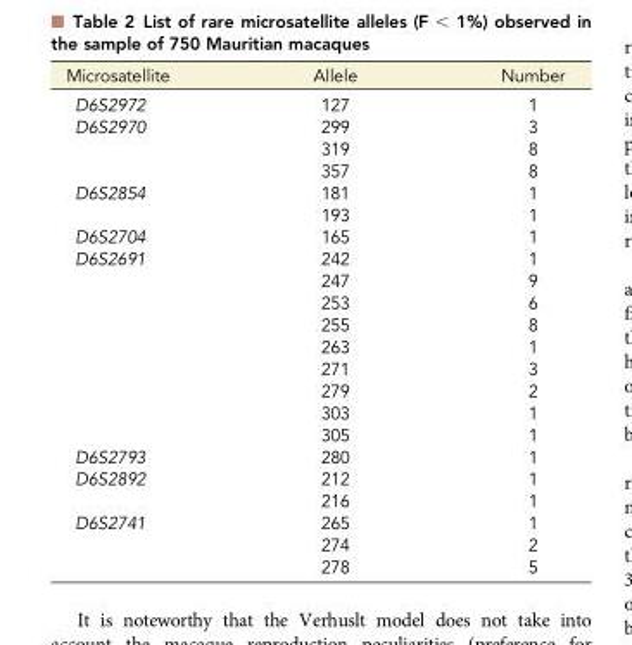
<table><thead><tr><td>Microsatellite</td><td>Allele</td><td>Number</td></tr></thead><tbody><tr><td>D6S2972</td><td>127</td><td>1</td></tr><tr><td rowspan="3">D6S2970</td><td>299</td><td>3</td></tr><tr><td>319</td><td>8</td></tr><tr><td>357</td><td>8</td></tr><tr><td rowspan="2">D6S2854</td><td>181</td><td>1</td></tr><tr><td>193</td><td>1</td></tr><tr><td>D6S2704</td><td>165</td><td>1</td></tr><tr><td rowspan="9">D6S2691</td><td>242</td><td>1</td></tr><tr><td>247</td><td>9</td></tr><tr><td>253</td><td>6</td></tr><tr><td>255</td><td>8</td></tr><tr><td>263</td><td>1</td></tr><tr><td>271</td><td>3</td></tr><tr><td>279</td><td>2</td></tr><tr><td>303</td><td>1</td></tr><tr><td>305</td><td>1</td></tr><tr><td>D6S2793</td><td>280</td><td>1</td></tr><tr><td rowspan="2">D6S2892</td><td>212</td><td>1</td></tr><tr><td>216</td><td>1</td></tr><tr><td rowspan="3">D6S2741</td><td>265</td><td>1</td></tr><tr><td>274</td><td>2</td></tr><tr><td>278</td><td>5</td></tr></tbody></table>